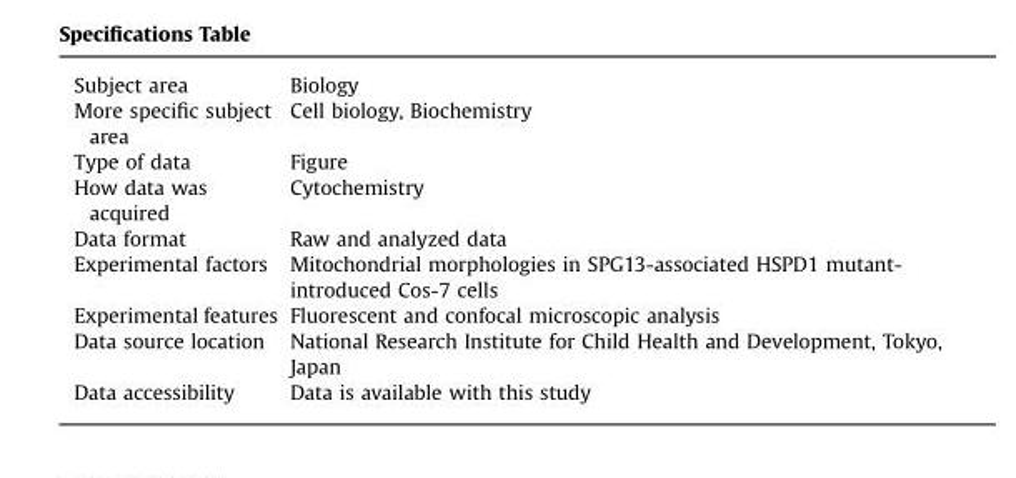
<table><tbody><tr><td>Subject area</td><td>Biology</td></tr><tr><td>More specific subject area</td><td>Cell biology, Biochemistry</td></tr><tr><td>Type of data</td><td>Figure</td></tr><tr><td>How data was acquired</td><td>Cytochemistry</td></tr><tr><td>Data format</td><td>Raw and analyzed data</td></tr><tr><td>Experimental factors</td><td>Mitochondrial morphologies in SPG13-associated HSPD1 mutant- introduced Cos-7 cells</td></tr><tr><td>Experimental features</td><td>Fluorescent and confocal microscopic analysis</td></tr><tr><td>Data source location</td><td>National Research Institute for Child Health and Development, Tokyo, Japan</td></tr><tr><td>Data accessibility</td><td>Data is available with this study</td></tr></tbody></table>